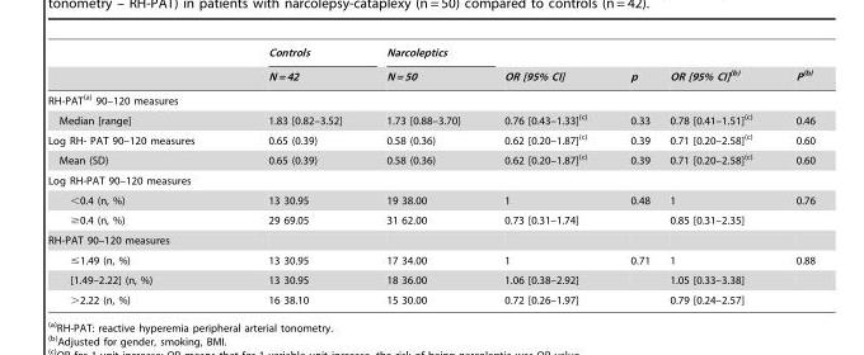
<table><thead><tr><td rowspan="2"></td><td rowspan="2">Controls N = 42</td><td rowspan="2">Narcoleptics N = 50</td><td rowspan="2">OR [95% CI]</td><td rowspan="2">p</td><td rowspan="2">OR [95% CI](b)</td><td rowspan="2">P(b)</td></tr><tr></tr></thead><tbody><tr><td colspan="7">RH-PAT(a) 90–120 measures</td></tr><tr><td>Median [range]</td><td>1.83 [0.82–3.52]</td><td>1.73 [0.88–3.70]</td><td>0.76 [0.43–1.33](c)</td><td>0.33</td><td>0.78 [0.41–1.51](c)</td><td>0.46</td></tr><tr><td>Log RH- PAT 90–120 measures</td><td>0.65 (0.39)</td><td>0.58 (0.36)</td><td>0.62 [0.20–1.87](c)</td><td>0.39</td><td>0.71 [0.20–2.58](c)</td><td>0.60</td></tr><tr><td>Mean (SD)</td><td>0.65 (0.39)</td><td>0.58 (0.36)</td><td>0.62 [0.20–1.87](c)</td><td>0.39</td><td>0.71 [0.20–2.58](c)</td><td>0.60</td></tr><tr><td colspan="7">Log RH-PAT 90–120 measures</td></tr><tr><td>&lt;0.4 (n, %)</td><td>13 30.95</td><td>19 38.00</td><td>1</td><td>0.48</td><td>1</td><td>0.76</td></tr><tr><td>≥0.4 (n, %)</td><td>29 69.05</td><td>31 62.00</td><td>0.73 [0.31–1.74]</td><td></td><td>0.85 [0.31–2.35]</td><td></td></tr><tr><td colspan="7">RH-PAT 90–120 measures</td></tr><tr><td>≤1.49 (n, %)</td><td>13 30.95</td><td>17 34.00</td><td>1</td><td>0.71</td><td>1</td><td>0.88</td></tr><tr><td>[1.49–2.22] (n, %)</td><td>13 30.95</td><td>18 36.00</td><td>1.06 [0.38–2.92]</td><td></td><td>1.05 [0.33–3.38]</td><td></td></tr><tr><td>&gt;2.22 (n, %)</td><td>16 38.10</td><td>15 30.00</td><td>0.72 [0.26–1.97]</td><td></td><td>0.79 [0.24–2.57]</td><td></td></tr></tbody></table>